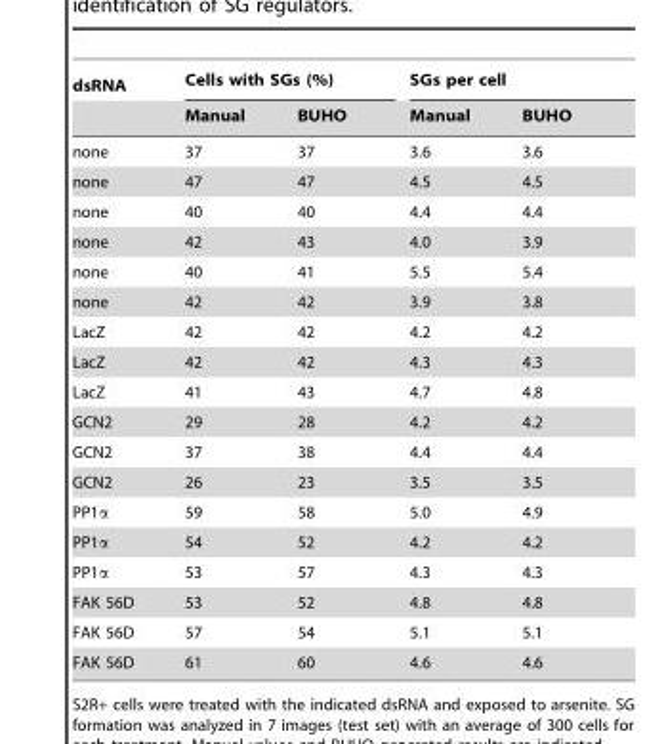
<table><thead><tr><td rowspan="2">dsRNA</td><td colspan="2">Cells with SGs (%)</td><td colspan="2">SGs per cell</td></tr><tr><td>Manual</td><td>BUHO</td><td>Manual</td><td>BUHO</td></tr></thead><tbody><tr><td>none</td><td>37</td><td>37</td><td>3.6</td><td>3.6</td></tr><tr><td>none</td><td>47</td><td>47</td><td>4.5</td><td>4.5</td></tr><tr><td>none</td><td>40</td><td>40</td><td>4.4</td><td>4.4</td></tr><tr><td>none</td><td>42</td><td>43</td><td>4.0</td><td>3.9</td></tr><tr><td>none</td><td>40</td><td>41</td><td>5.5</td><td>5.4</td></tr><tr><td>none</td><td>42</td><td>42</td><td>3.9</td><td>3.8</td></tr><tr><td>LacZ</td><td>42</td><td>42</td><td>4.2</td><td>4.2</td></tr><tr><td>LacZ</td><td>42</td><td>42</td><td>4.3</td><td>4.3</td></tr><tr><td>LacZ</td><td>41</td><td>43</td><td>4.7</td><td>4.8</td></tr><tr><td>GCN2</td><td>29</td><td>28</td><td>4.2</td><td>4.2</td></tr><tr><td>GCN2</td><td>37</td><td>38</td><td>4.4</td><td>4.4</td></tr><tr><td>GCN2</td><td>26</td><td>23</td><td>3.5</td><td>3.5</td></tr><tr><td>PP1α</td><td>59</td><td>58</td><td>5.0</td><td>4.9</td></tr><tr><td>PP1α</td><td>54</td><td>52</td><td>4.2</td><td>4.2</td></tr><tr><td>PP1α</td><td>53</td><td>57</td><td>4.3</td><td>4.3</td></tr><tr><td>FAK 56D</td><td>53</td><td>52</td><td>4.8</td><td>4.8</td></tr><tr><td>FAK 56D</td><td>57</td><td>54</td><td>5.1</td><td>5.1</td></tr><tr><td>FAK 56D</td><td>61</td><td>60</td><td>4.6</td><td>4.6</td></tr></tbody></table>